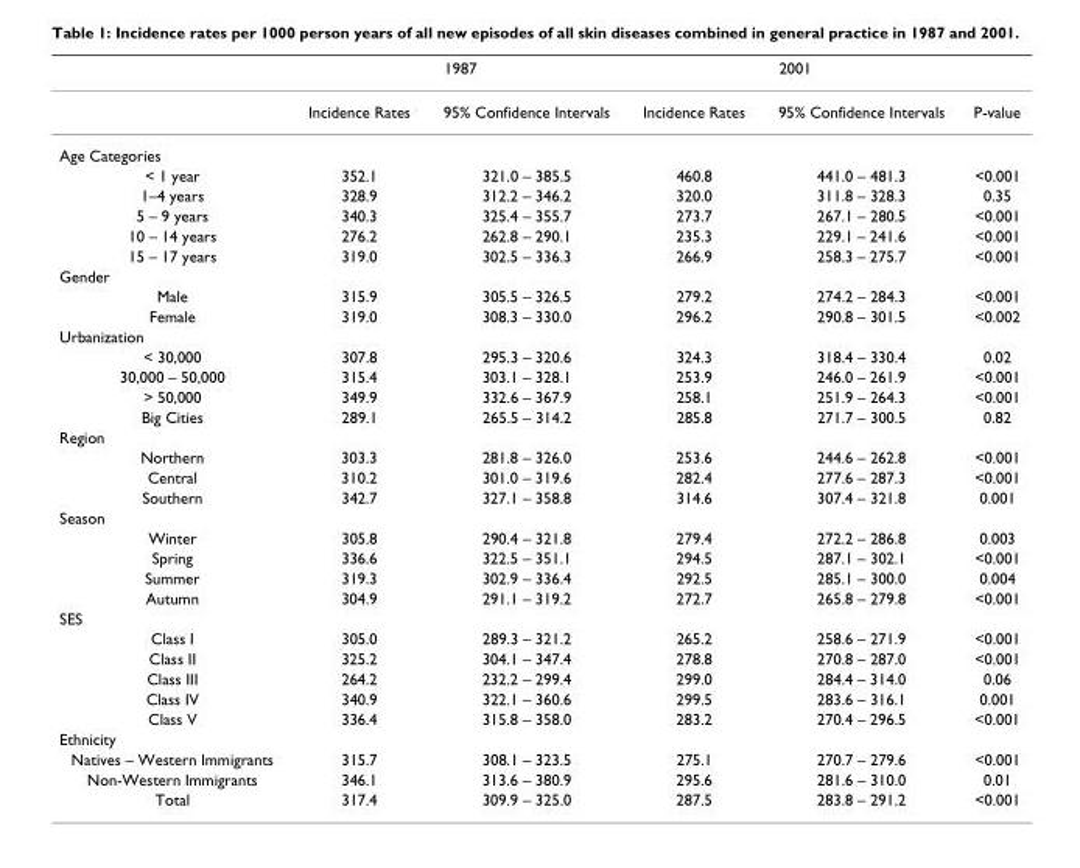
<table><thead><tr><td rowspan="2"></td><td colspan="2">1987</td><td colspan="2">2001</td><td rowspan="2">P-value</td></tr><tr><td>Incidence Rates</td><td>95% Confidence Intervals</td><td>Incidence Rates</td><td>95% Confidence Intervals</td></tr></thead><tbody><tr><td colspan="6">Age Categories</td></tr><tr><td>&lt; 1 year</td><td>352.1</td><td>321.0 – 385.5</td><td>460.8</td><td>441.0 – 481.3</td><td>&lt;0.001</td></tr><tr><td>1–4 years</td><td>328.9</td><td>312.2 – 346.2</td><td>320.0</td><td>311.8 – 328.3</td><td>0.35</td></tr><tr><td>5 – 9 years</td><td>340.3</td><td>325.4 – 355.7</td><td>273.7</td><td>267.1 – 280.5</td><td>&lt;0.001</td></tr><tr><td>10 – 14 years</td><td>276.2</td><td>262.8 – 290.1</td><td>235.3</td><td>229.1 – 241.6</td><td>&lt;0.001</td></tr><tr><td>15 – 17 years</td><td>319.0</td><td>302.5 – 336.3</td><td>266.9</td><td>258.3 – 275.7</td><td>&lt;0.001</td></tr><tr><td colspan="6">Gender</td></tr><tr><td>Male</td><td>315.9</td><td>305.5 – 326.5</td><td>279.2</td><td>274.2 – 284.3</td><td>&lt;0.001</td></tr><tr><td>Female</td><td>319.0</td><td>308.3 – 330.0</td><td>296.2</td><td>290.8 – 301.5</td><td>&lt;0.002</td></tr><tr><td colspan="6">Urbanization</td></tr><tr><td>&lt; 30,000</td><td>307.8</td><td>295.3 – 320.6</td><td>324.3</td><td>318.4 – 330.4</td><td>0.02</td></tr><tr><td>30,000 – 50,000</td><td>315.4</td><td>303.1 – 328.1</td><td>253.9</td><td>246.0 – 261.9</td><td>&lt;0.001</td></tr><tr><td>&gt; 50,000</td><td>349.9</td><td>332.6 – 367.9</td><td>258.1</td><td>251.9 – 264.3</td><td>&lt;0.001</td></tr><tr><td>Big Cities</td><td>289.1</td><td>265.5 – 314.2</td><td>285.8</td><td>271.7 – 300.5</td><td>0.82</td></tr><tr><td colspan="6">Region</td></tr><tr><td>Northern</td><td>303.3</td><td>281.8 – 326.0</td><td>253.6</td><td>244.6 – 262.8</td><td>&lt;0.001</td></tr><tr><td>Central</td><td>310.2</td><td>301.0 – 319.6</td><td>282.4</td><td>277.6 – 287.3</td><td>&lt;0.001</td></tr><tr><td>Southern</td><td>342.7</td><td>327.1 – 358.8</td><td>314.6</td><td>307.4 – 321.8</td><td>0.001</td></tr><tr><td colspan="6">Season</td></tr><tr><td>Winter</td><td>305.8</td><td>290.4 – 321.8</td><td>279.4</td><td>272.2 – 286.8</td><td>0.003</td></tr><tr><td>Spring</td><td>336.6</td><td>322.5 – 351.1</td><td>294.5</td><td>287.1 – 302.1</td><td>&lt;0.001</td></tr><tr><td>Summer</td><td>319.3</td><td>302.9 – 336.4</td><td>292.5</td><td>285.1 – 300.0</td><td>0.004</td></tr><tr><td>Autumn</td><td>304.9</td><td>291.1 – 319.2</td><td>272.7</td><td>265.8 – 279.8</td><td>&lt;0.001</td></tr><tr><td colspan="6">SES</td></tr><tr><td>Class I</td><td>305.0</td><td>289.3 – 321.2</td><td>265.2</td><td>258.6 – 271.9</td><td>&lt;0.001</td></tr><tr><td>Class II</td><td>325.2</td><td>304.1 – 347.4</td><td>278.8</td><td>270.8 – 287.0</td><td>&lt;0.001</td></tr><tr><td>Class III</td><td>264.2</td><td>232.2 – 299.4</td><td>299.0</td><td>284.4 – 314.0</td><td>0.06</td></tr><tr><td>Class IV</td><td>340.9</td><td>322.1 – 360.6</td><td>299.5</td><td>283.6 – 316.1</td><td>0.001</td></tr><tr><td>Class V</td><td>336.4</td><td>315.8 – 358.0</td><td>283.2</td><td>270.4 – 296.5</td><td>&lt;0.001</td></tr><tr><td colspan="6">Ethnicity</td></tr><tr><td>Natives – Western Immigrants</td><td>315.7</td><td>308.1 – 323.5</td><td>275.1</td><td>270.7 – 279.6</td><td>&lt;0.001</td></tr><tr><td>Non-Western Immigrants</td><td>346.1</td><td>313.6 – 380.9</td><td>295.6</td><td>281.6 – 310.0</td><td>0.01</td></tr><tr><td>Total</td><td>317.4</td><td>309.9 – 325.0</td><td>287.5</td><td>283.8 – 291.2</td><td>&lt;0.001</td></tr></tbody></table>